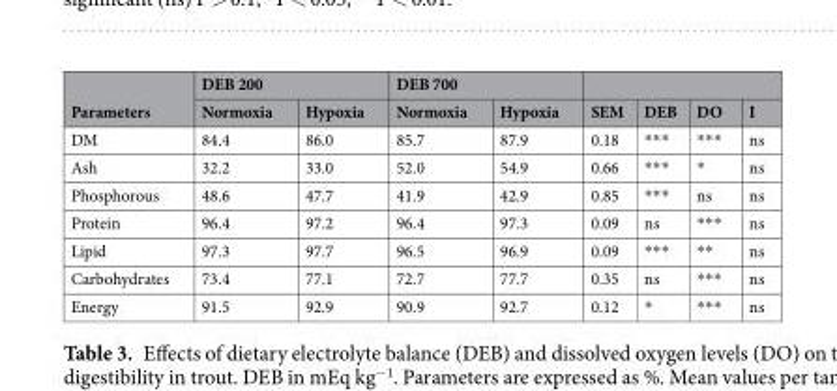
<table><thead><tr><td rowspan="2">Parameters</td><td colspan="2">DEB 200</td><td colspan="2">DEB 700</td><td rowspan="2">SEM</td><td rowspan="2">DEB</td><td rowspan="2">DO</td><td rowspan="2">I</td></tr><tr><td>Normoxia</td><td>Hypoxia</td><td>Normoxia</td><td>Hypoxia</td></tr></thead><tbody><tr><td>DM</td><td>84.4</td><td>86.0</td><td>85.7</td><td>87.9</td><td>0.18</td><td>***</td><td>***</td><td>ns</td></tr><tr><td>Ash</td><td>32.2</td><td>33.0</td><td>52.0</td><td>54.9</td><td>0.66</td><td>***</td><td>*</td><td>ns</td></tr><tr><td>Phosphorous</td><td>48.6</td><td>47.7</td><td>41.9</td><td>42.9</td><td>0.85</td><td>***</td><td>ns</td><td>ns</td></tr><tr><td>Protein</td><td>96.4</td><td>97.2</td><td>96.4</td><td>97.3</td><td>0.09</td><td>ns</td><td>***</td><td>ns</td></tr><tr><td>Lipid</td><td>97.3</td><td>97.7</td><td>96.5</td><td>96.9</td><td>0.09</td><td>***</td><td>**</td><td>ns</td></tr><tr><td>Carbohydrates</td><td>73.4</td><td>77.1</td><td>72.7</td><td>77.7</td><td>0.35</td><td>ns</td><td>***</td><td>ns</td></tr><tr><td>Energy</td><td>91.5</td><td>92.9</td><td>90.9</td><td>92.7</td><td>0.12</td><td>*</td><td>***</td><td>ns</td></tr></tbody></table>